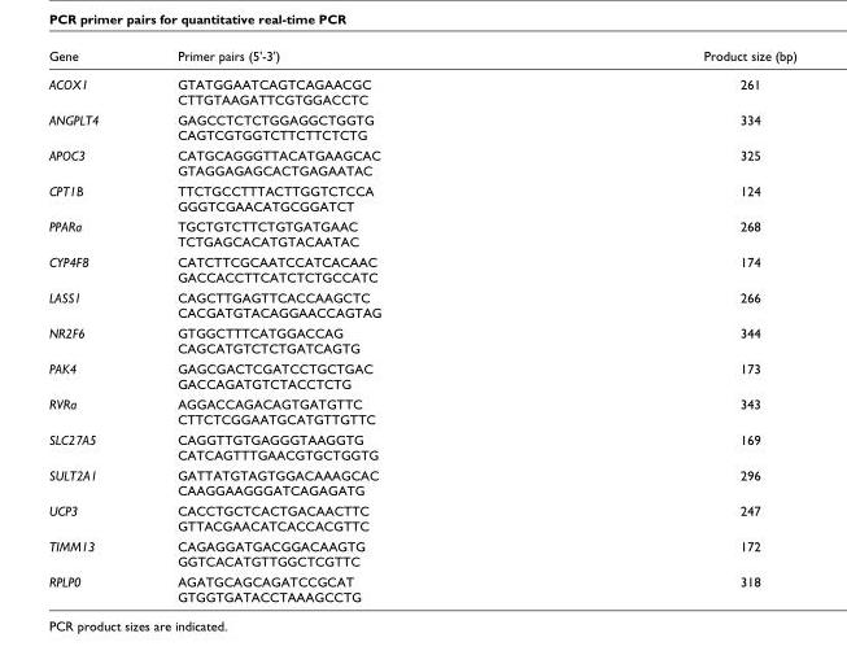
<table><thead><tr><td>Gene</td><td>Primer pairs (5&#x27;-3&#x27;)</td><td>Product size (bp)</td></tr></thead><tbody><tr><td>ACOX1</td><td>GTATGGAATCAGTCAGAACGC CTTGTAAGATTCGTGGACCTC</td><td>261</td></tr><tr><td>ANGPLT4</td><td>GAGCCTCTCTGGAGGCTGGTG CAGTCGTGGTCTTCTTCTCTG</td><td>334</td></tr><tr><td>APOC3</td><td>CATGCAGGGTTACATGAAGCAC GTAGGAGAGCACTGAGAATAC</td><td>325</td></tr><tr><td>CPT1B</td><td>TTCTGCCTTTACTTGGTCTCCA GGGTCGAACATGCGGATCT</td><td>124</td></tr><tr><td>PPARa</td><td>TGCTGTCTTCTGTGATGAAC TCTGAGCACATGTACAATAC</td><td>268</td></tr><tr><td>CYP4F8</td><td>CATCTTCGCAATCCATCACAAC GACCACCTTCATCTCTGCCATC</td><td>174</td></tr><tr><td>LASS1</td><td>CAGCTTGAGTTCACCAAGCTC CACGATGTACAGGAACCAGTAG</td><td>266</td></tr><tr><td>NR2F6</td><td>GTGGCTTTCATGGACCAG CAGCATGTCTCTGATCAGTG</td><td>344</td></tr><tr><td>PAK4</td><td>GAGCGACTCGATCCTGCTGAC GACCAGATGTCTACCTCTG</td><td>173</td></tr><tr><td>RVRa</td><td>AGGACCAGACAGTGATGTTC CTTCTCGGAATGCATGTTGTTC</td><td>343</td></tr><tr><td>SLC27A5</td><td>CAGGTTGTGAGGGTAAGGTG CATCAGTTTGAACGTGCTGGTG</td><td>169</td></tr><tr><td>SULT2A1</td><td>GATTATGTAGTGGACAAAGCAC CAAGGAAGGGATCAGAGATG</td><td>296</td></tr><tr><td>UCP3</td><td>CACCTGCTCACTGACAACTTC GTTACGAACATCACCACGTTC</td><td>247</td></tr><tr><td>TIMM13</td><td>CAGAGGATGACGGACAAGTG GGTCACATGTTGGCTCGTTC</td><td>172</td></tr><tr><td>RPLP0</td><td>AGATGCAGCAGATCCGCAT GTGGTGATACCTAAAGCCTG</td><td>318</td></tr></tbody></table>